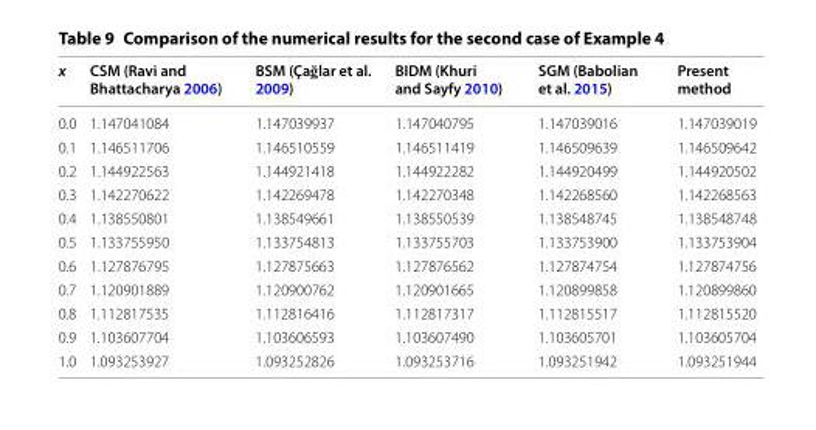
<table><thead><tr><td>x</td><td>CSM (Ravi and Bhattacharya 2006)</td><td>BSM (Çağlar et al. 2009)</td><td>BIDM (Khuri and Sayfy 2010)</td><td>SGM (Babolian et al. 2015)</td><td>Present method</td></tr></thead><tbody><tr><td>0.0</td><td>1.147041084</td><td>1.147039937</td><td>1.147040795</td><td>1.147039016</td><td>1.147039019</td></tr><tr><td>0.1</td><td>1.146511706</td><td>1.146510559</td><td>1.146511419</td><td>1.146509639</td><td>1.146509642</td></tr><tr><td>0.2</td><td>1.144922563</td><td>1.144921418</td><td>1.144922282</td><td>1.144920499</td><td>1.144920502</td></tr><tr><td>0.3</td><td>1.142270622</td><td>1.142269478</td><td>1.142270348</td><td>1.142268560</td><td>1.142268563</td></tr><tr><td>0.4</td><td>1.138550801</td><td>1.138549661</td><td>1.138550539</td><td>1.138548745</td><td>1.138548748</td></tr><tr><td>0.5</td><td>1.133755950</td><td>1.133754813</td><td>1.133755703</td><td>1.133753900</td><td>1.133753904</td></tr><tr><td>0.6</td><td>1.127876795</td><td>1.127875663</td><td>1.127876562</td><td>1.127874754</td><td>1.127874756</td></tr><tr><td>0.7</td><td>1.120901889</td><td>1.120900762</td><td>1.120901665</td><td>1.120899858</td><td>1.120899860</td></tr><tr><td>0.8</td><td>1.112817535</td><td>1.112816416</td><td>1.112817317</td><td>1.112815517</td><td>1.112815520</td></tr><tr><td>0.9</td><td>1.103607704</td><td>1.103606593</td><td>1.103607490</td><td>1.103605701</td><td>1.103605704</td></tr><tr><td>1.0</td><td>1.093253927</td><td>1.093252826</td><td>1.093253716</td><td>1.093251942</td><td>1.093251944</td></tr></tbody></table>